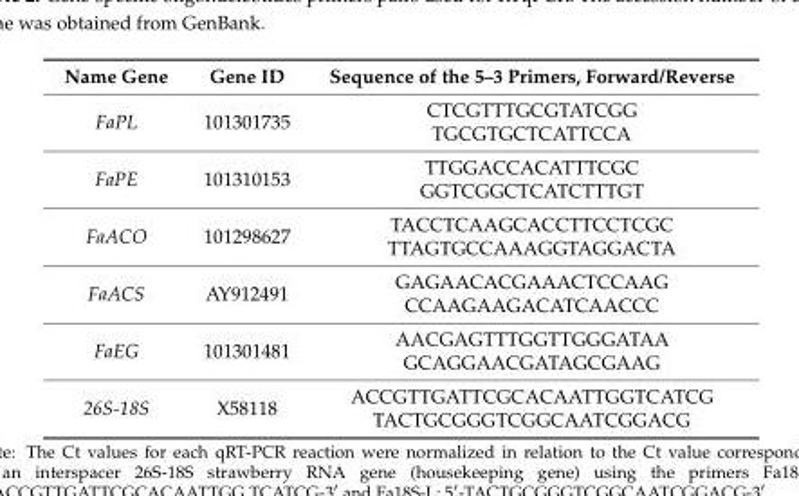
<table><thead><tr><td>Name Gene</td><td>Gene ID</td><td>Sequence of the 5–3 Primers, Forward/Reverse</td></tr></thead><tbody><tr><td>FaPL</td><td>101301735</td><td>CTCGTTTGCGTATCGG TGCGTGCTCATTCCA</td></tr><tr><td>FaPE</td><td>101310153</td><td>TTGGACCACATTTCGC GGTCGGCTCATCTTTGT</td></tr><tr><td>FaACO</td><td>101298627</td><td>TACCTCAAGCACCTTCCTCGC TTAGTGCCAAAGGTAGGACTA</td></tr><tr><td>FaACS</td><td>AY912491</td><td>GAGAACACGAAACTCCAAG CCAAGAAGACATCAACCC</td></tr><tr><td>FaEG</td><td>101301481</td><td>AACGAGTTTGGTTGGGATAA GCAGGAACGATAGCGAAG</td></tr><tr><td>26S-18S</td><td>X58118</td><td>ACCGTTGATTCGCACAATTGGTCATCG TACTGCGGGTCGGCAATCGGACG</td></tr></tbody></table>